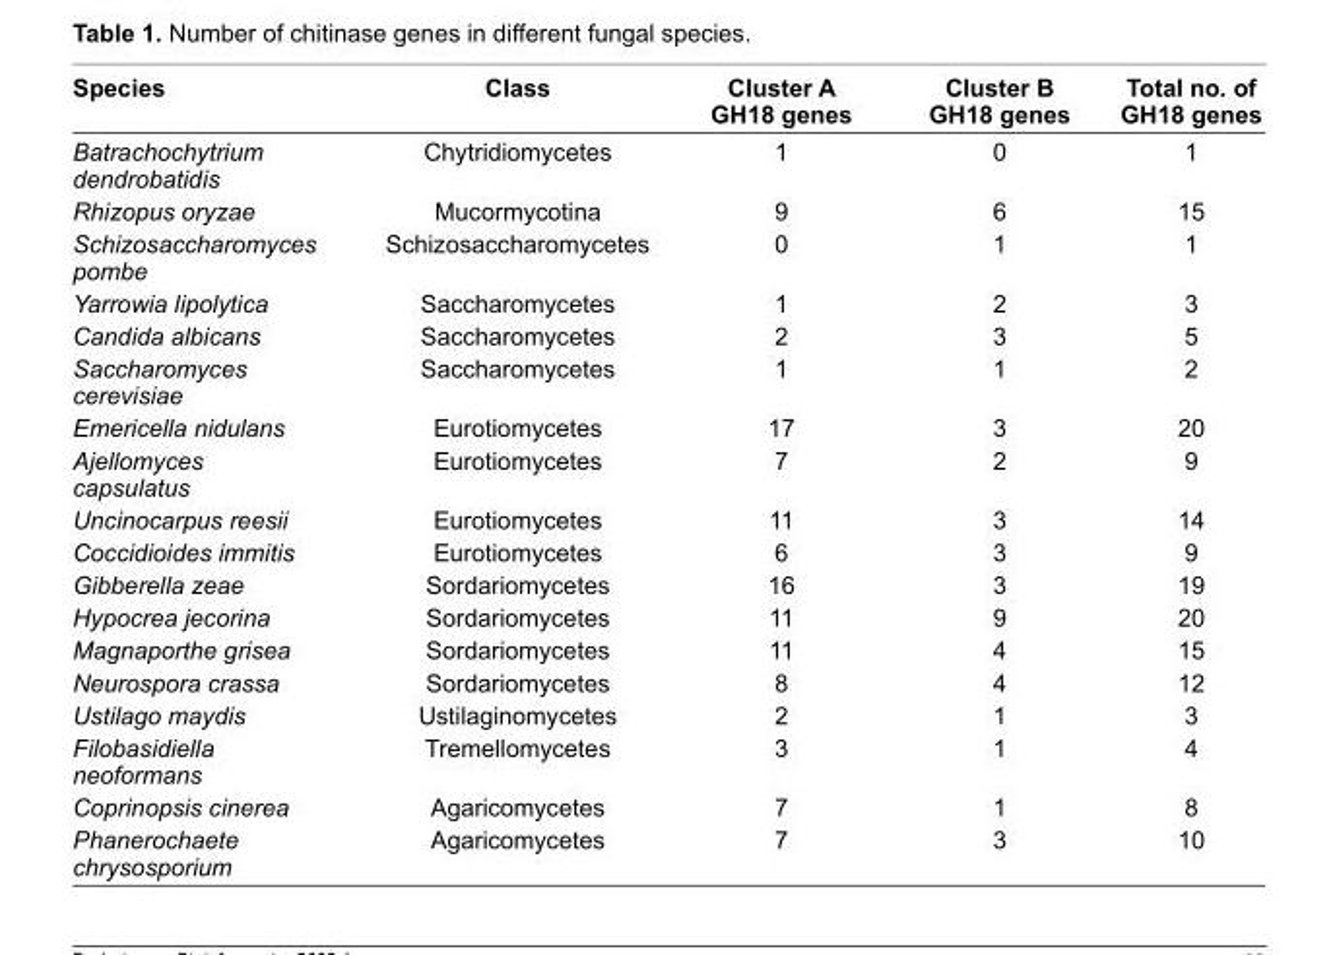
<table><thead><tr><td>Species</td><td>Class</td><td>Cluster A GH18 genes</td><td>Cluster B GH18 genes</td><td>Total no. of GH18 genes</td></tr></thead><tbody><tr><td>Batrachochytrium dendrobatidis</td><td>Chytridiomycetes</td><td>1</td><td>0</td><td>1</td></tr><tr><td>Rhizopus oryzae</td><td>Mucormycotina</td><td>9</td><td>6</td><td>15</td></tr><tr><td>Schizosaccharomyces pombe</td><td>Schizosaccharomycetes</td><td>0</td><td>1</td><td>1</td></tr><tr><td>Yarrowia lipolytica</td><td>Saccharomycetes</td><td>1</td><td>2</td><td>3</td></tr><tr><td>Candida albicans</td><td>Saccharomycetes</td><td>2</td><td>3</td><td>5</td></tr><tr><td>Saccharomyces cerevisiae</td><td>Saccharomycetes</td><td>1</td><td>1</td><td>2</td></tr><tr><td>Emericella nidulans</td><td>Eurotiomycetes</td><td>17</td><td>3</td><td>20</td></tr><tr><td>Ajellomyces capsulatus</td><td>Eurotiomycetes</td><td>7</td><td>2</td><td>9</td></tr><tr><td>Uncinocarpus reesii</td><td>Eurotiomycetes</td><td>11</td><td>3</td><td>14</td></tr><tr><td>Coccidioides immitis</td><td>Eurotiomycetes</td><td>6</td><td>3</td><td>9</td></tr><tr><td>Gibberella zeae</td><td>Sordariomycetes</td><td>16</td><td>3</td><td>19</td></tr><tr><td>Hypocrea jecorina</td><td>Sordariomycetes</td><td>11</td><td>9</td><td>20</td></tr><tr><td>Magnaporthe grisea</td><td>Sordariomycetes</td><td>11</td><td>4</td><td>15</td></tr><tr><td>Neurospora crassa</td><td>Sordariomycetes</td><td>8</td><td>4</td><td>12</td></tr><tr><td>Ustilago maydis</td><td>Ustilaginomycetes</td><td>2</td><td>1</td><td>3</td></tr><tr><td>Filobasidiella neoformans</td><td>Tremellomycetes</td><td>3</td><td>1</td><td>4</td></tr><tr><td>Coprinopsis cinerea</td><td>Agaricomycetes</td><td>7</td><td>1</td><td>8</td></tr><tr><td>Phanerochaete chrysosporium</td><td>Agaricomycetes</td><td>7</td><td>3</td><td>10</td></tr></tbody></table>